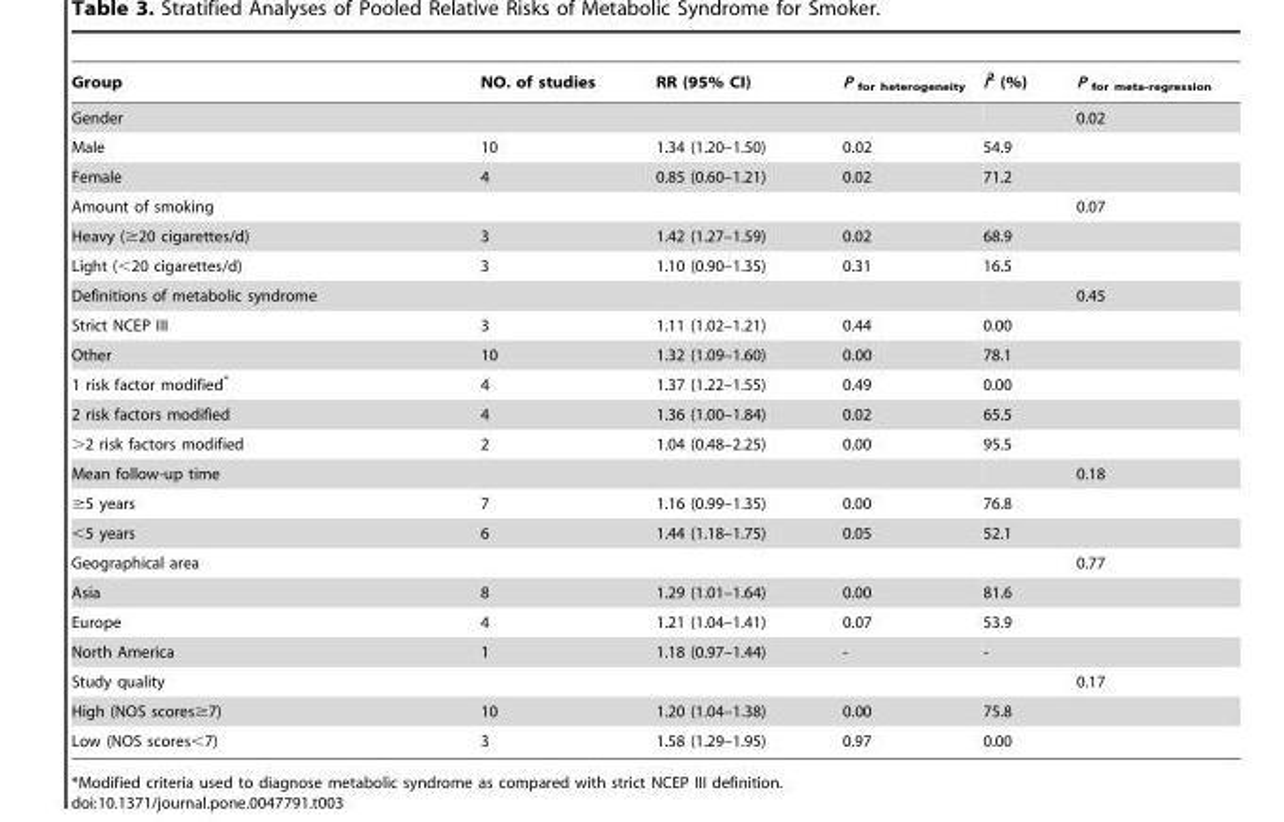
<table><thead><tr><td>Group</td><td>NO. of studies</td><td>RR (95% CI)</td><td>P <sub>for heterogeneity</sub></td><td>I<sup>2</sup> (%)</td><td>P <sub>for meta-regression</sub></td></tr></thead><tbody><tr><td>Gender</td><td></td><td></td><td></td><td></td><td>0.02</td></tr><tr><td>Male</td><td>10</td><td>1.34 (1.20–1.50)</td><td>0.02</td><td>54.9</td><td></td></tr><tr><td>Female</td><td>4</td><td>0.85 (0.60–1.21)</td><td>0.02</td><td>71.2</td><td></td></tr><tr><td>Amount of smoking</td><td></td><td></td><td></td><td></td><td>0.07</td></tr><tr><td>Heavy (≥20 cigarettes/d)</td><td>3</td><td>1.42 (1.27–1.59)</td><td>0.02</td><td>68.9</td><td></td></tr><tr><td>Light (&lt;20 cigarettes/d)</td><td>3</td><td>1.10 (0.90–1.35)</td><td>0.31</td><td>16.5</td><td></td></tr><tr><td>Definitions of metabolic syndrome</td><td></td><td></td><td></td><td></td><td>0.45</td></tr><tr><td>Strict NCEP III</td><td>3</td><td>1.11 (1.02–1.21)</td><td>0.44</td><td>0.00</td><td></td></tr><tr><td>Other</td><td>10</td><td>1.32 (1.09–1.60)</td><td>0.00</td><td>78.1</td><td></td></tr><tr><td>1 risk factor modified*</td><td>4</td><td>1.37 (1.22–1.55)</td><td>0.49</td><td>0.00</td><td></td></tr><tr><td>2 risk factors modified</td><td>4</td><td>1.36 (1.00–1.84)</td><td>0.02</td><td>65.5</td><td></td></tr><tr><td>&gt;2 risk factors modified</td><td>2</td><td>1.04 (0.48–2.25)</td><td>0.00</td><td>95.5</td><td></td></tr><tr><td>Mean follow-up time</td><td></td><td></td><td></td><td></td><td>0.18</td></tr><tr><td>≥5 years</td><td>7</td><td>1.16 (0.99–1.35)</td><td>0.00</td><td>76.8</td><td></td></tr><tr><td>&lt;5 years</td><td>6</td><td>1.44 (1.18–1.75)</td><td>0.05</td><td>52.1</td><td></td></tr><tr><td>Geographical area</td><td></td><td></td><td></td><td></td><td>0.77</td></tr><tr><td>Asia</td><td>8</td><td>1.29 (1.01–1.64)</td><td>0.00</td><td>81.6</td><td></td></tr><tr><td>Europe</td><td>4</td><td>1.21 (1.04–1.41)</td><td>0.07</td><td>53.9</td><td></td></tr><tr><td>North America</td><td>1</td><td>1.18 (0.97–1.44)</td><td>-</td><td>-</td><td></td></tr><tr><td>Study quality</td><td></td><td></td><td></td><td></td><td>0.17</td></tr><tr><td>High (NOS scores≥7)</td><td>10</td><td>1.20 (1.04–1.38)</td><td>0.00</td><td>75.8</td><td></td></tr><tr><td>Low (NOS scores&lt;7)</td><td>3</td><td>1.58 (1.29–1.95)</td><td>0.97</td><td>0.00</td><td></td></tr></tbody></table>